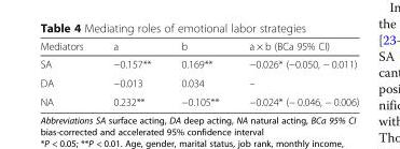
<table><thead><tr><td>Mediators</td><td>a</td><td>b</td><td>a × b (BCa 95% CI)</td></tr></thead><tbody><tr><td>SA</td><td>−0.157**</td><td>0.169**</td><td>−0.026* (−0.050, − 0.011)</td></tr><tr><td>DA</td><td>−0.013</td><td>0.034</td><td>–</td></tr><tr><td>NA</td><td>0.232**</td><td>−0.105**</td><td>−0.024* (− 0.046, − 0.006)</td></tr></tbody></table>